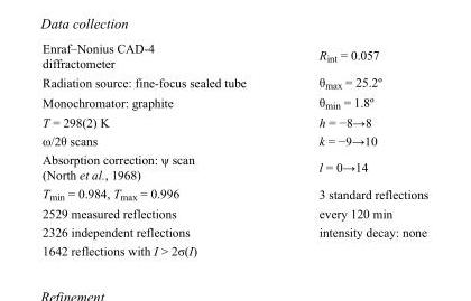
<table><tbody><tr><td>Enraf–Nonius CAD-4 diffractometer</td><td>R<sub>int</sub> = 0.057</td></tr><tr><td>Radiation source: fine-focus sealed tube</td><td>θ<sub>max</sub> = 25.2º</td></tr><tr><td>Monochromator: graphite</td><td>θ<sub>min</sub> = 1.8º</td></tr><tr><td>T = 298(2) K</td><td>h = −8→8</td></tr><tr><td>ω/2θ scans</td><td>k = −9→10</td></tr><tr><td>Absorption correction: ψ scan (North et al., 1968)</td><td>l = 0→14</td></tr><tr><td>T<sub>min</sub> = 0.984, T<sub>max</sub> = 0.996</td><td>3 standard reflections</td></tr><tr><td>2529 measured reflections</td><td>every 120 min</td></tr><tr><td>2326 independent reflections</td><td>intensity decay: none</td></tr><tr><td>1642 reflections with I &gt; 2σ(I)</td><td></td></tr></tbody></table>